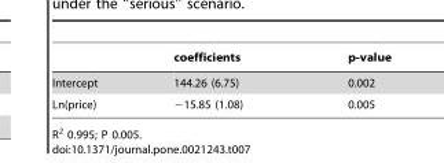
<table><thead><tr><td></td><td>coefficients</td><td>p-value</td></tr></thead><tbody><tr><td>Intercept</td><td>144.26 (6.75)</td><td>0.002</td></tr><tr><td>Ln(price)</td><td>−15.85 (1.08)</td><td>0.005</td></tr></tbody></table>